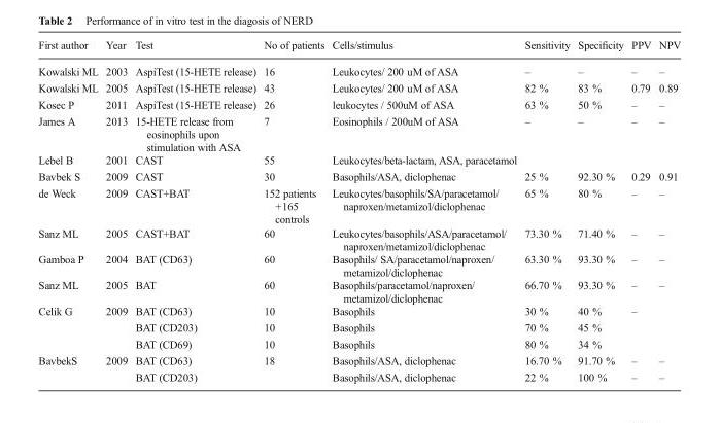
<table><thead><tr><td>First author</td><td>Year</td><td>Test</td><td>No of patients</td><td>Cells/stimulus</td><td>Sensitivity</td><td>Specificity</td><td>PPV</td><td>NPV</td></tr></thead><tbody><tr><td>Kowalski ML</td><td>2003</td><td>AspiTest (15-HETE release)</td><td>16</td><td>Leukocytes/ 200 uM of ASA</td><td>–</td><td>–</td><td>–</td><td>–</td></tr><tr><td>Kowalski ML</td><td>2005</td><td>AspiTest (15-HETE release)</td><td>43</td><td>Leukocytes/ 200 uM of ASA</td><td>82 %</td><td>83 %</td><td>0.79</td><td>0.89</td></tr><tr><td>Kosec P</td><td>2011</td><td>AspiTest (15-HETE release)</td><td>26</td><td>leukocytes / 500uM of ASA</td><td>63 %</td><td>50 %</td><td>–</td><td>–</td></tr><tr><td>James A</td><td>2013</td><td>15-HETE release from eosinophils upon stimulation with ASA</td><td>7</td><td>Eosinophils / 200uM of ASA</td><td>–</td><td>–</td><td>–</td><td>–</td></tr><tr><td>Lebel B</td><td>2001</td><td>CAST</td><td>55</td><td>Leukocytes/beta-lactam, ASA, paracetamol</td><td></td><td></td><td></td><td></td></tr><tr><td>Bavbek S</td><td>2009</td><td>CAST</td><td>30</td><td>Basophils/ASA, diclophenac</td><td>25 %</td><td>92.30 %</td><td>0.29</td><td>0.91</td></tr><tr><td>de Weck</td><td>2009</td><td>CAST+BAT</td><td>152 patients +165 controls</td><td>Leukocytes/basophils/SA/paracetamol/ naproxen/metamizol/diclophenac</td><td>65 %</td><td>80 %</td><td>–</td><td>–</td></tr><tr><td>Sanz ML</td><td>2005</td><td>CAST+BAT</td><td>60</td><td>Leukocytes/basophils/ASA/paracetamol/ naproxen/metamizol/diclophenac</td><td>73.30 %</td><td>71.40 %</td><td>–</td><td>–</td></tr><tr><td>Gamboa P</td><td>2004</td><td>BAT (CD63)</td><td>60</td><td>Basophils/ SA/paracetamol/naproxen/ metamizol/diclophenac</td><td>63.30 %</td><td>93.30 %</td><td>–</td><td>–</td></tr><tr><td>Sanz ML</td><td>2005</td><td>BAT</td><td>60</td><td>Basophils/paracetamol/naproxen/ metamizol/diclophenac</td><td>66.70 %</td><td>93.30 %</td><td>–</td><td>–</td></tr><tr><td rowspan="3">Celik G</td><td>2009</td><td>BAT (CD63)</td><td>10</td><td>Basophils</td><td>30 %</td><td>40 %</td><td>–</td><td></td></tr><tr><td></td><td>BAT (CD203)</td><td>10</td><td>Basophils</td><td>70 %</td><td>45 %</td><td></td><td></td></tr><tr><td></td><td>BAT (CD69)</td><td>10</td><td>Basophils</td><td>80 %</td><td>34 %</td><td></td><td></td></tr><tr><td rowspan="2">BavbekS</td><td>2009</td><td>BAT (CD63)</td><td>18</td><td>Basophils/ASA, diclophenac</td><td>16.70 %</td><td>91.70 %</td><td>–</td><td>–</td></tr><tr><td></td><td>BAT (CD203)</td><td></td><td>Basophils/ASA, diclophenac</td><td>22 %</td><td>100 %</td><td>–</td><td>–</td></tr></tbody></table>